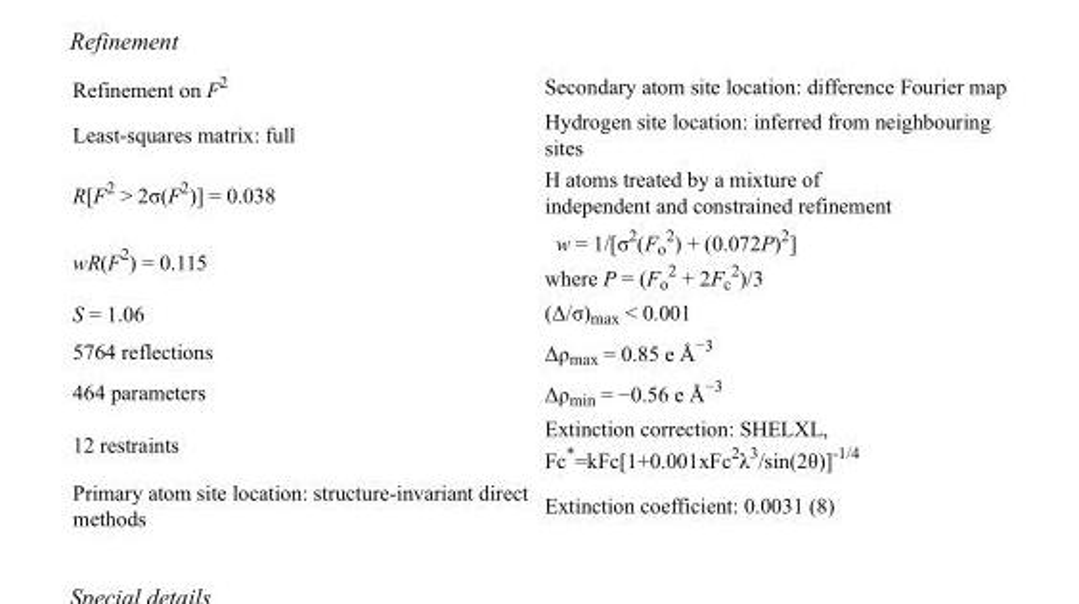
<table><tbody><tr><td>Refinement on F<sup>2</sup></td><td>Secondary atom site location: difference Fourier map</td></tr><tr><td>Least-squares matrix: full</td><td>Hydrogen site location: inferred from neighbouring sites</td></tr><tr><td>R[F<sup>2</sup> &gt; 2σ(F<sup>2</sup>)] = 0.038</td><td>H atoms treated by a mixture of independent and constrained refinement</td></tr><tr><td>wR(F<sup>2</sup>) = 0.115</td><td>w = 1/[σ<sup>2</sup>(F<sub>o</sub> <sup>2</sup>) + (0.072P)<sup>2</sup>] where P = (F<sub>o</sub> <sup>2</sup> + 2F<sub>c</sub> <sup>2</sup>)/3</td></tr><tr><td>S = 1.06</td><td>(Δ/σ)<sub>max</sub> &lt; 0.001</td></tr><tr><td>5764 reflections</td><td>Δρ<sub>max</sub> = 0.85 e Å<sup>−3</sup></td></tr><tr><td>464 parameters</td><td>Δρ<sub>min</sub> = −0.56 e Å<sup>−3</sup></td></tr><tr><td>12 restraints</td><td>Extinction correction: SHELXL, Fc*=kFc[1+0.001xFc<sup>2</sup>λ<sup>3</sup>/sin(2θ)]<sup>-1/4</sup></td></tr><tr><td>Primary atom site location: structure-invariant direct methods</td><td>Extinction coefficient: 0.0031 (8)</td></tr></tbody></table>